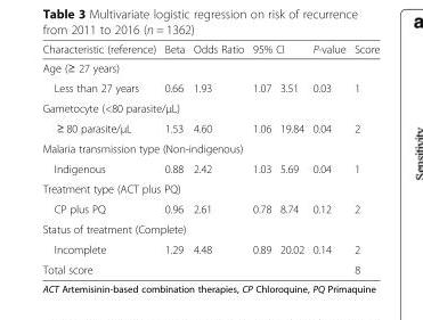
<table><thead><tr><td>Characteristic (reference)</td><td>Beta</td><td>Odds Ratio</td><td colspan="2">95% CI</td><td>P-value</td><td>Score</td></tr><tr><td colspan="7">Age (≥ 27 years)</td></tr><tr><td>Less than 27 years</td><td>0.66</td><td>1.93</td><td>1.07</td><td>3.51</td><td>0.03</td><td>1</td></tr></thead><tbody><tr><td colspan="7">Gametocyte (&lt;80 parasite/μL)</td></tr><tr><td>≥ 80 parasite/μL</td><td>1.53</td><td>4.60</td><td>1.06</td><td>19.84</td><td>0.04</td><td>2</td></tr><tr><td colspan="7">Malaria transmission type (Non-indigenous)</td></tr><tr><td>Indigenous</td><td>0.88</td><td>2.42</td><td>1.03</td><td>5.69</td><td>0.04</td><td>1</td></tr><tr><td colspan="7">Treatment type (ACT plus PQ)</td></tr><tr><td>CP plus PQ</td><td>0.96</td><td>2.61</td><td>0.78</td><td>8.74</td><td>0.12</td><td>2</td></tr><tr><td colspan="7">Status of treatment (Complete)</td></tr><tr><td>Incomplete</td><td>1.29</td><td>4.48</td><td>0.89</td><td>20.02</td><td>0.14</td><td>2</td></tr><tr><td>Total score</td><td></td><td></td><td></td><td></td><td></td><td>8</td></tr></tbody></table>